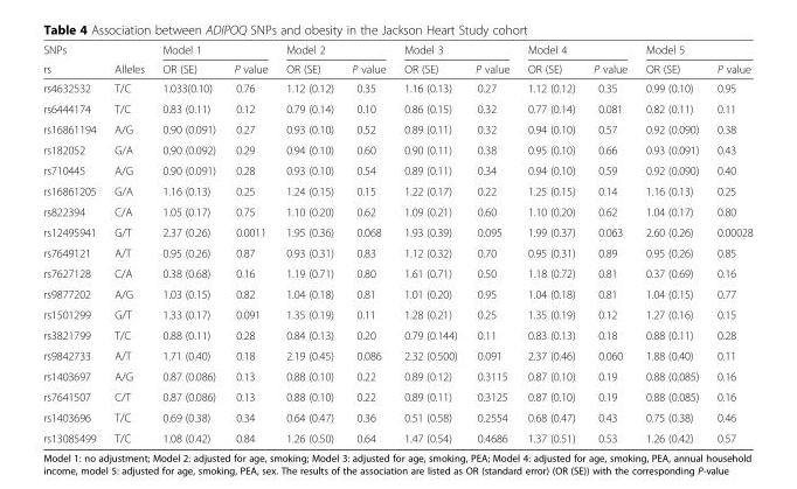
<table><thead><tr><td rowspan="2">SNPs rs</td><td rowspan="2">Alleles</td><td colspan="2">Model 1</td><td colspan="2">Model 2</td><td colspan="2">Model 3</td><td colspan="2">Model 4</td><td colspan="2">Model 5</td></tr><tr><td>OR (SE)</td><td>P value</td><td>OR (SE)</td><td>P value</td><td>OR (SE)</td><td>P value</td><td>OR (SE)</td><td>P value</td><td>OR (SE)</td><td>P value</td></tr></thead><tbody><tr><td>rs4632532</td><td>T/C</td><td>1.033(0.10)</td><td>0.76</td><td>1.12 (0.12)</td><td>0.35</td><td>1.16 (0.13)</td><td>0.27</td><td>1.12 (0.12)</td><td>0.35</td><td>0.99 (0.10)</td><td>0.95</td></tr><tr><td>rs6444174</td><td>T/C</td><td>0.83 (0.11)</td><td>0.12</td><td>0.79 (0.14)</td><td>0.10</td><td>0.86 (0.15)</td><td>0.32</td><td>0.77 (0.14)</td><td>0.081</td><td>0.82 (0.11)</td><td>0.11</td></tr><tr><td>rs16861194</td><td>A/G</td><td>0.90 (0.091)</td><td>0.27</td><td>0.93 (0.10)</td><td>0.52</td><td>0.89 (0.11)</td><td>0.32</td><td>0.94 (0.10)</td><td>0.57</td><td>0.92 (0.090)</td><td>0.38</td></tr><tr><td>rs182052</td><td>G/A</td><td>0.90 (0.092)</td><td>0.29</td><td>0.94 (0.10)</td><td>0.60</td><td>0.90 (0.11)</td><td>0.38</td><td>0.95 (0.10)</td><td>0.66</td><td>0.93 (0.091)</td><td>0.43</td></tr><tr><td>rs710445</td><td>A/G</td><td>0.90 (0.091)</td><td>0.28</td><td>0.93 (0.10)</td><td>0.54</td><td>0.89 (0.11)</td><td>0.34</td><td>0.94 (0.10)</td><td>0.59</td><td>0.92 (0.090)</td><td>0.40</td></tr><tr><td>rs16861205</td><td>G/A</td><td>1.16 (0.13)</td><td>0.25</td><td>1.24 (0.15)</td><td>0.15</td><td>1.22 (0.17)</td><td>0.22</td><td>1.25 (0.15)</td><td>0.14</td><td>1.16 (0.13)</td><td>0.25</td></tr><tr><td>rs822394</td><td>C/A</td><td>1.05 (0.17)</td><td>0.75</td><td>1.10 (0.20)</td><td>0.62</td><td>1.09 (0.21)</td><td>0.60</td><td>1.10 (0.20)</td><td>0.62</td><td>1.04 (0.17)</td><td>0.80</td></tr><tr><td>rs12495941</td><td>G/T</td><td>2.37 (0.26)</td><td>0.0011</td><td>1.95 (0.36)</td><td>0.068</td><td>1.93 (0.39)</td><td>0.095</td><td>1.99 (0.37)</td><td>0.063</td><td>2.60 (0.26)</td><td>0.00028</td></tr><tr><td>rs7649121</td><td>A/T</td><td>0.95 (0.26)</td><td>0.87</td><td>0.93 (0.31)</td><td>0.83</td><td>1.12 (0.32)</td><td>0.70</td><td>0.95 (0.31)</td><td>0.89</td><td>0.95 (0.26)</td><td>0.85</td></tr><tr><td>rs7627128</td><td>C/A</td><td>0.38 (0.68)</td><td>0.16</td><td>1.19 (0.71)</td><td>0.80</td><td>1.61 (0.71)</td><td>0.50</td><td>1.18 (0.72)</td><td>0.81</td><td>0.37 (0.69)</td><td>0.16</td></tr><tr><td>rs9877202</td><td>A/G</td><td>1.03 (0.15)</td><td>0.82</td><td>1.04 (0.18)</td><td>0.81</td><td>1.01 (0.20)</td><td>0.95</td><td>1.04 (0.18)</td><td>0.81</td><td>1.04 (0.15)</td><td>0.77</td></tr><tr><td>rs1501299</td><td>G/T</td><td>1.33 (0.17)</td><td>0.091</td><td>1.35 (0.19)</td><td>0.11</td><td>1.28 (0.21)</td><td>0.25</td><td>1.35 (0.19)</td><td>0.12</td><td>1.27 (0.16)</td><td>0.15</td></tr><tr><td>rs3821799</td><td>T/C</td><td>0.88 (0.11)</td><td>0.28</td><td>0.84 (0.13)</td><td>0.20</td><td>0.79 (0.144)</td><td>0.11</td><td>0.83 (0.13)</td><td>0.18</td><td>0.88 (0.11)</td><td>0.28</td></tr><tr><td>rs9842733</td><td>A/T</td><td>1.71 (0.40)</td><td>0.18</td><td>2.19 (0.45)</td><td>0.086</td><td>2.32 (0.500)</td><td>0.091</td><td>2.37 (0.46)</td><td>0.060</td><td>1.88 (0.40)</td><td>0.11</td></tr><tr><td>rs1403697</td><td>A/G</td><td>0.87 (0.086)</td><td>0.13</td><td>0.88 (0.10)</td><td>0.22</td><td>0.89 (0.12)</td><td>0.3115</td><td>0.87 (0.10)</td><td>0.19</td><td>0.88 (0.085)</td><td>0.16</td></tr><tr><td>rs7641507</td><td>C/T</td><td>0.87 (0.086)</td><td>0.13</td><td>0.88 (0.10)</td><td>0.22</td><td>0.89 (0.11)</td><td>0.3125</td><td>0.87 (0.10)</td><td>0.19</td><td>0.88 (0.085)</td><td>0.16</td></tr><tr><td>rs1403696</td><td>T/C</td><td>0.69 (0.38)</td><td>0.34</td><td>0.64 (0.47)</td><td>0.36</td><td>0.51 (0.58)</td><td>0.2554</td><td>0.68 (0.47)</td><td>0.43</td><td>0.75 (0.38)</td><td>0.46</td></tr><tr><td>rs13085499</td><td>T/C</td><td>1.08 (0.42)</td><td>0.84</td><td>1.26 (0.50)</td><td>0.64</td><td>1.47 (0.54)</td><td>0.4686</td><td>1.37 (0.51)</td><td>0.53</td><td>1.26 (0.42)</td><td>0.57</td></tr></tbody></table>